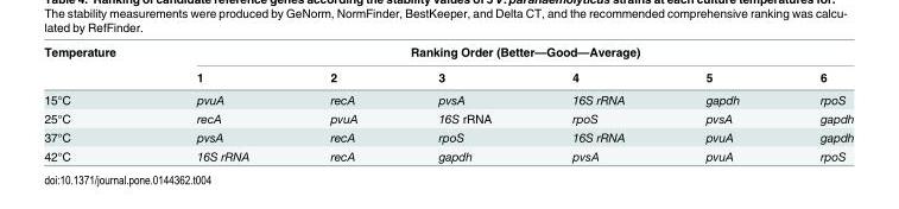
<table><thead><tr><td rowspan="2">Temperature</td><td colspan="6">Ranking Order (Better—Good—Average)</td></tr><tr><td>1</td><td>2</td><td>3</td><td>4</td><td>5</td><td>6</td></tr></thead><tbody><tr><td>15°C</td><td>pvuA</td><td>recA</td><td>pvsA</td><td>16S rRNA</td><td>gapdh</td><td>rpoS</td></tr><tr><td>25°C</td><td>recA</td><td>pvuA</td><td>16S rRNA</td><td>rpoS</td><td>pvsA</td><td>gapdh</td></tr><tr><td>37°C</td><td>pvsA</td><td>recA</td><td>rpoS</td><td>16S rRNA</td><td>pvuA</td><td>gapdh</td></tr><tr><td>42°C</td><td>16S rRNA</td><td>recA</td><td>gapdh</td><td>pvsA</td><td>pvuA</td><td>rpoS</td></tr></tbody></table>